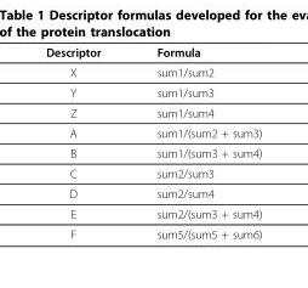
<table><thead><tr><td>Descriptor</td><td>Formula</td></tr></thead><tbody><tr><td>X</td><td>sum1/sum2</td></tr><tr><td>Y</td><td>sum1/sum3</td></tr><tr><td>Z</td><td>sum1/sum4</td></tr><tr><td>A</td><td>sum1/(sum2 + sum3)</td></tr><tr><td>B</td><td>sum1/(sum3 + sum4)</td></tr><tr><td>C</td><td>sum2/sum3</td></tr><tr><td>D</td><td>sum2/sum4</td></tr><tr><td>E</td><td>sum2/(sum3 + sum4)</td></tr><tr><td>F</td><td>sum5/(sum5 + sum6)</td></tr></tbody></table>